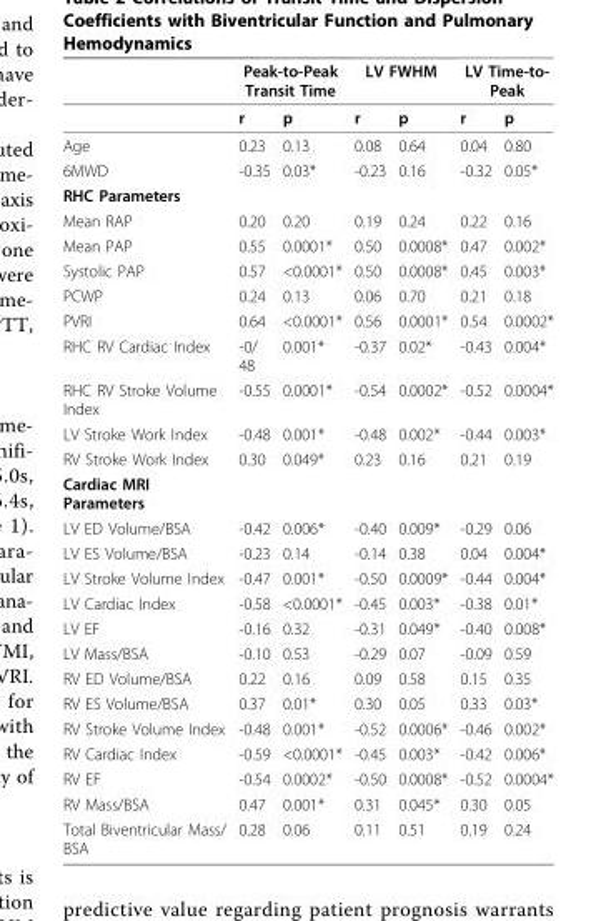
<table><thead><tr><td rowspan="2"></td><td colspan="2">Peak-to-Peak Transit Time</td><td colspan="2">LV FWHM</td><td colspan="2">LV Time-to- Peak</td></tr><tr><td>r</td><td>p</td><td>r</td><td>p</td><td>r</td><td>p</td></tr></thead><tbody><tr><td>Age</td><td>0.23</td><td>0.13</td><td>0.08</td><td>0.64</td><td>0.04</td><td>0.80</td></tr><tr><td>6MWD</td><td>-0.35</td><td>0.03*</td><td>-0.23</td><td>0.16</td><td>-0.32</td><td>0.05*</td></tr><tr><td colspan="7">RHC Parameters</td></tr><tr><td>Mean RAP</td><td>0.20</td><td>0.20</td><td>0.19</td><td>0.24</td><td>0.22</td><td>0.16</td></tr><tr><td>Mean PAP</td><td>0.55</td><td>0.0001*</td><td>0.50</td><td>0.0008*</td><td>0.47</td><td>0.002*</td></tr><tr><td>Systolic PAP</td><td>0.57</td><td>&lt;0.0001*</td><td>0.50</td><td>0.0008*</td><td>0.45</td><td>0.003*</td></tr><tr><td>PCWP</td><td>0.24</td><td>0.13</td><td>0.06</td><td>0.70</td><td>0.21</td><td>0.18</td></tr><tr><td>PVRI</td><td>0.64</td><td>&lt;0.0001*</td><td>0.56</td><td>0.0001*</td><td>0.54</td><td>0.0002*</td></tr><tr><td>RHC RV Cardiac Index</td><td>-0/ 48</td><td>0.001*</td><td>-0.37</td><td>0.02*</td><td>-0.43</td><td>0.004*</td></tr><tr><td>RHC RV Stroke Volume Index</td><td>-0.55</td><td>0.0001*</td><td>-0.54</td><td>0.0002*</td><td>-0.52</td><td>0.0004*</td></tr><tr><td>LV Stroke Work Index</td><td>-0.48</td><td>0.001*</td><td>-0.48</td><td>0.002*</td><td>-0.44</td><td>0.003*</td></tr><tr><td>RV Stroke Work Index</td><td>0.30</td><td>0.049*</td><td>0.23</td><td>0.16</td><td>0.21</td><td>0.19</td></tr><tr><td colspan="7">Cardiac MRI Parameters</td></tr><tr><td>LV ED Volume/BSA</td><td>-0.42</td><td>0.006*</td><td>-0.40</td><td>0.009*</td><td>-0.29</td><td>0.06</td></tr><tr><td>LV ES Volume/BSA</td><td>-0.23</td><td>0.14</td><td>-0.14</td><td>0.38</td><td>0.04</td><td>0.004*</td></tr><tr><td>LV Stroke Volume Index</td><td>-0.47</td><td>0.001*</td><td>-0.50</td><td>0.0009*</td><td>-0.44</td><td>0.004*</td></tr><tr><td>LV Cardiac Index</td><td>-0.58</td><td>&lt;0.0001*</td><td>-0.45</td><td>0.003*</td><td>-0.38</td><td>0.01*</td></tr><tr><td>LV EF</td><td>-0.16</td><td>0.32</td><td>-0.31</td><td>0.049*</td><td>-0.40</td><td>0.008*</td></tr><tr><td>LV Mass/BSA</td><td>-0.10</td><td>0.53</td><td>-0.29</td><td>0.07</td><td>-0.09</td><td>0.59</td></tr><tr><td>RV ED Volume/BSA</td><td>0.22</td><td>0.16</td><td>0.09</td><td>0.58</td><td>0.15</td><td>0.35</td></tr><tr><td>RV ES Volume/BSA</td><td>0.37</td><td>0.01*</td><td>0.30</td><td>0.05</td><td>0.33</td><td>0.03*</td></tr><tr><td>RV Stroke Volume Index</td><td>-0.48</td><td>0.001*</td><td>-0.52</td><td>0.0006*</td><td>-0.46</td><td>0.002*</td></tr><tr><td>RV Cardiac Index</td><td>-0.59</td><td>&lt;0.0001*</td><td>-0.45</td><td>0.003*</td><td>-0.42</td><td>0.006*</td></tr><tr><td>RV EF</td><td>-0.54</td><td>0.0002*</td><td>-0.50</td><td>0.0008*</td><td>-0.52</td><td>0.0004*</td></tr><tr><td>RV Mass/BSA</td><td>0.47</td><td>0.001*</td><td>0.31</td><td>0.045*</td><td>0.30</td><td>0.05</td></tr><tr><td>Total Biventricular Mass/ BSA</td><td>0.28</td><td>0.06</td><td>0.11</td><td>0.51</td><td>0.19</td><td>0.24</td></tr></tbody></table>